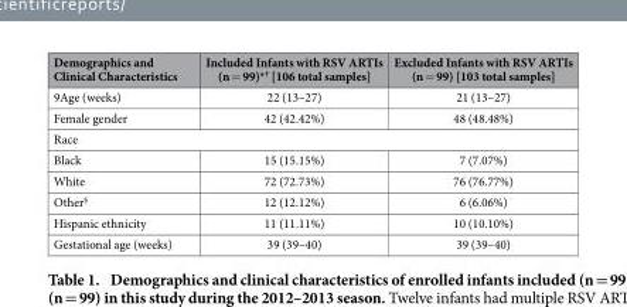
<table><thead><tr><td>Demographics and Clinical Characteristics</td><td>Included Infants with RSV ARTIs (n = 99)*<sup>†</sup> [106 total samples]</td><td>Excluded Infants with RSV ARTIs (n = 99) [103 total samples]</td></tr></thead><tbody><tr><td>9Age (weeks)</td><td>22 (13–27)</td><td>21 (13–27)</td></tr><tr><td>Female gender</td><td>42 (42.42%)</td><td>48 (48.48%)</td></tr><tr><td colspan="3">Race</td></tr><tr><td>Black</td><td>15 (15.15%)</td><td>7 (7.07%)</td></tr><tr><td>White</td><td>72 (72.73%)</td><td>76 (76.77%)</td></tr><tr><td>Other§</td><td>12 (12.12%)</td><td>6 (6.06%)</td></tr><tr><td>Hispanic ethnicity</td><td>11 (11.11%)</td><td>10 (10.10%)</td></tr><tr><td>Gestational age (weeks)</td><td>39 (39–40)</td><td>39 (39–40)</td></tr></tbody></table>